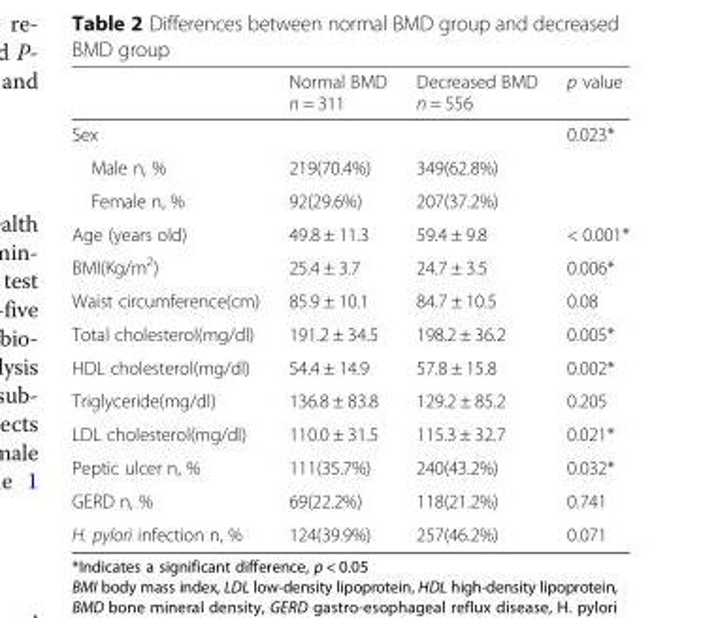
<table><thead><tr><td></td><td>Normal BMD n = 311</td><td>Decreased BMD n = 556</td><td>p value</td></tr></thead><tbody><tr><td>Sex</td><td></td><td></td><td>0.023*</td></tr><tr><td>Male n, %</td><td>219(70.4%)</td><td>349(62.8%)</td><td></td></tr><tr><td>Female n, %</td><td>92(29.6%)</td><td>207(37.2%)</td><td></td></tr><tr><td>Age (years old)</td><td>49.8 ± 11.3</td><td>59.4 ± 9.8</td><td>&lt; 0.001*</td></tr><tr><td>BMI(Kg/m<sup>2</sup>)</td><td>25.4 ± 3.7</td><td>24.7 ± 3.5</td><td>0.006*</td></tr><tr><td>Waist circumference(cm)</td><td>85.9 ± 10.1</td><td>84.7 ± 10.5</td><td>0.08</td></tr><tr><td>Total cholesterol(mg/dl)</td><td>191.2 ± 34.5</td><td>198.2 ± 36.2</td><td>0.005*</td></tr><tr><td>HDL cholesterol(mg/dl)</td><td>54.4 ± 14.9</td><td>57.8 ± 15.8</td><td>0.002*</td></tr><tr><td>Triglyceride(mg/dl)</td><td>136.8 ± 83.8</td><td>129.2 ± 85.2</td><td>0.205</td></tr><tr><td>LDL cholesterol(mg/dl)</td><td>110.0 ± 31.5</td><td>115.3 ± 32.7</td><td>0.021*</td></tr><tr><td>Peptic ulcer n, %</td><td>111(35.7%)</td><td>240(43.2%)</td><td>0.032*</td></tr><tr><td>GERD n, %</td><td>69(22.2%)</td><td>118(21.2%)</td><td>0.741</td></tr><tr><td>H. pylori infection n, %</td><td>124(39.9%)</td><td>257(46.2%)</td><td>0.071</td></tr></tbody></table>